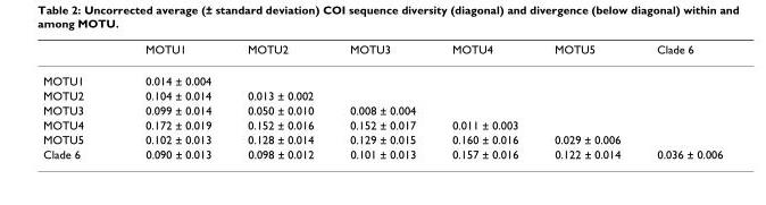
<table><thead><tr><td></td><td>MOTU1</td><td>MOTU2</td><td>MOTU3</td><td>MOTU4</td><td>MOTU5</td><td>Clade 6</td></tr></thead><tbody><tr><td>MOTU1</td><td>0.014 ± 0.004</td><td></td><td></td><td></td><td></td><td></td></tr><tr><td>MOTU2</td><td>0.104 ± 0.014</td><td>0.013 ± 0.002</td><td></td><td></td><td></td><td></td></tr><tr><td>MOTU3</td><td>0.099 ± 0.014</td><td>0.050 ± 0.010</td><td>0.008 ± 0.004</td><td></td><td></td><td></td></tr><tr><td>MOTU4</td><td>0.172 ± 0.019</td><td>0.152 ± 0.016</td><td>0.152 ± 0.017</td><td>0.011 ± 0.003</td><td></td><td></td></tr><tr><td>MOTU5</td><td>0.102 ± 0.013</td><td>0.128 ± 0.014</td><td>0.129 ± 0.015</td><td>0.160 ± 0.016</td><td>0.029 ± 0.006</td><td></td></tr><tr><td>Clade 6</td><td>0.090 ± 0.013</td><td>0.098 ± 0.012</td><td>0.101 ± 0.013</td><td>0.157 ± 0.016</td><td>0.122 ± 0.014</td><td>0.036 ± 0.006</td></tr></tbody></table>